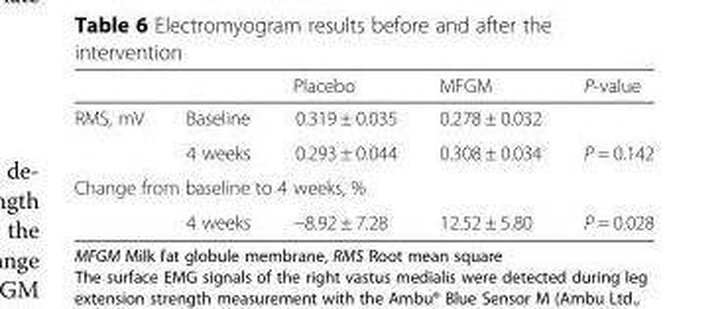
<table><thead><tr><td></td><td></td><td>Placebo</td><td>MFGM</td><td>P-value</td></tr></thead><tbody><tr><td rowspan="2">RMS, mV</td><td>Baseline</td><td>0.319 ± 0.035</td><td>0.278 ± 0.032</td><td></td></tr><tr><td>4 weeks</td><td>0.293 ± 0.044</td><td>0.308 ± 0.034</td><td>P = 0.142</td></tr><tr><td colspan="5">Change from baseline to 4 weeks, %</td></tr><tr><td></td><td>4 weeks</td><td>−8.92 ± 7.28</td><td>12.52 ± 5.80</td><td>P = 0.028</td></tr></tbody></table>